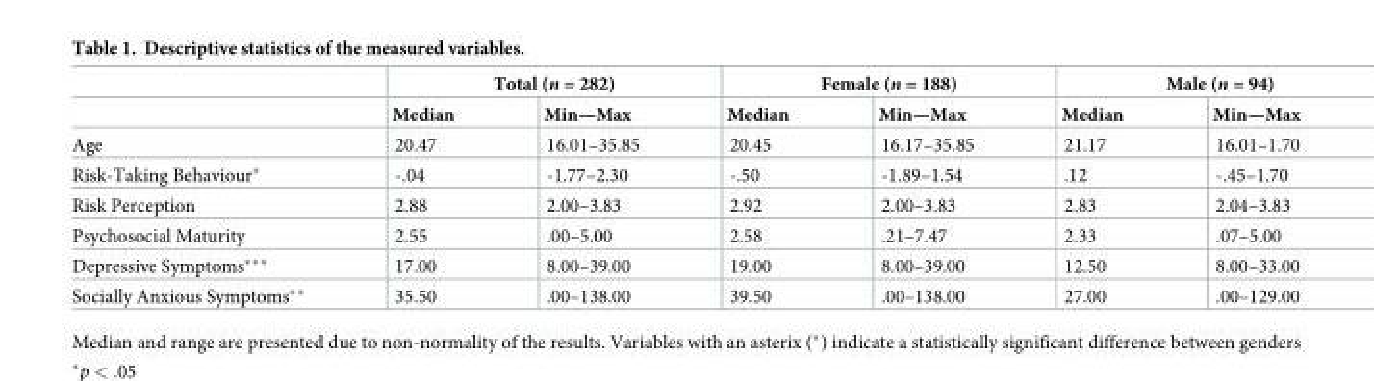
<table><thead><tr><td rowspan="2"></td><td colspan="2">Total (n = 282)</td><td colspan="2">Female (n = 188)</td><td colspan="2">Male (n = 94)</td></tr><tr><td>Median</td><td>Min—Max</td><td>Median</td><td>Min—Max</td><td>Median</td><td>Min—Max</td></tr></thead><tbody><tr><td>Age</td><td>20.47</td><td>16.01–35.85</td><td>20.45</td><td>16.17–35.85</td><td>21.17</td><td>16.01–1.70</td></tr><tr><td>Risk-Taking Behaviour*</td><td>-.04</td><td>-1.77–2.30</td><td>-.50</td><td>-1.89–1.54</td><td>.12</td><td>-.45–1.70</td></tr><tr><td>Risk Perception</td><td>2.88</td><td>2.00–3.83</td><td>2.92</td><td>2.00–3.83</td><td>2.83</td><td>2.04–3.83</td></tr><tr><td>Psychosocial Maturity</td><td>2.55</td><td>.00–5.00</td><td>2.58</td><td>.21–7.47</td><td>2.33</td><td>.07–5.00</td></tr><tr><td>Depressive Symptoms***</td><td>17.00</td><td>8.00–39.00</td><td>19.00</td><td>8.00–39.00</td><td>12.50</td><td>8.00–33.00</td></tr><tr><td>Socially Anxious Symptoms**</td><td>35.50</td><td>.00–138.00</td><td>39.50</td><td>.00–138.00</td><td>27.00</td><td>.00–129.00</td></tr></tbody></table>